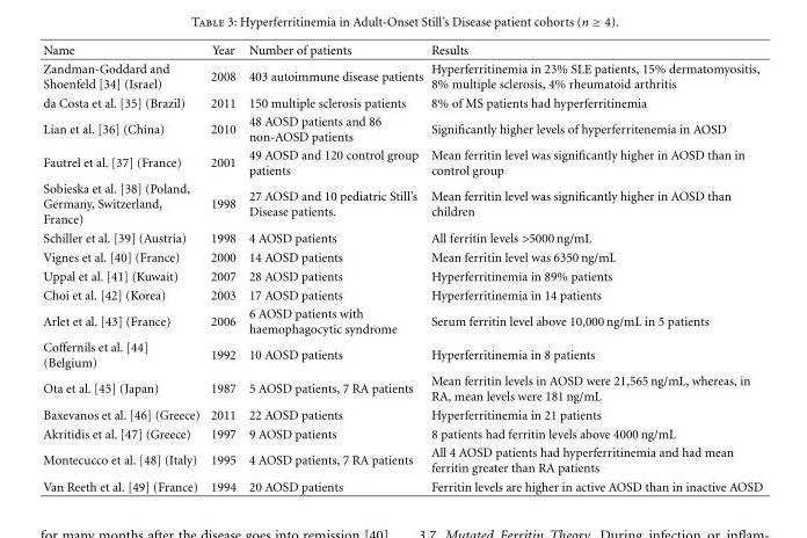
<table><thead><tr><td>Name</td><td>Year</td><td>Number of patients</td><td>Results</td></tr></thead><tbody><tr><td>Zandman-Goddard and Shoenfeld [34] (Israel)</td><td>2008</td><td>403 autoimmune disease patients</td><td>Hyperferritinemia in 23% SLE patients, 15% dermatomyositis, 8% multiple sclerosis, 4% rheumatoid arthritis</td></tr><tr><td>da Costa et al. [35] (Brazil)</td><td>2011</td><td>150 multiple sclerosis patients</td><td>8% of MS patients had hyperferritinemia</td></tr><tr><td>Lian et al. [36] (China)</td><td>2010</td><td>48 AOSD patients and 86 non-AOSD patients</td><td>Significantly higher levels of hyperferritenemia in AOSD</td></tr><tr><td>Fautrel et al. [37] (France)</td><td>2001</td><td>49 AOSD and 120 control group patients</td><td>Mean ferritin level was significantly higher in AOSD than in control group</td></tr><tr><td>Sobieska et al. [38] (Poland, Germany, Switzerland, France)</td><td>1998</td><td>27 AOSD and 10 pediatric Still’s Disease patients.</td><td>Mean ferritin level was significantly higher in AOSD than children</td></tr><tr><td>Schiller et al. [39] (Austria)</td><td>1998</td><td>4 AOSD patients</td><td>All ferritin levels &gt;5000 ng/mL</td></tr><tr><td>Vignes et al. [40] (France)</td><td>2000</td><td>14 AOSD patients</td><td>Mean ferritin level was 6350 ng/mL</td></tr><tr><td>Uppal et al. [41] (Kuwait)</td><td>2007</td><td>28 AOSD patients</td><td>Hyperferritinemia in 89% patients</td></tr><tr><td>Choi et al. [42] (Korea)</td><td>2003</td><td>17 AOSD patients</td><td>Hyperferritinemia in 14 patients</td></tr><tr><td>Arlet et al. [43] (France)</td><td>2006</td><td>6 AOSD patients with haemophagocytic syndrome</td><td>Serum ferritin level above 10,000 ng/mL in 5 patients</td></tr><tr><td>Coffernils et al. [44] (Belgium)</td><td>1992</td><td>10 AOSD patients</td><td>Hyperferritinemia in 8 patients</td></tr><tr><td>Ota et al. [45] (Japan)</td><td>1987</td><td>5 AOSD patients, 7 RA patients</td><td>Mean ferritin levels in AOSD were 21,565 ng/mL, whereas, in RA, mean levels were 181 ng/mL</td></tr><tr><td>Baxevanos et al. [46] (Greece)</td><td>2011</td><td>22 AOSD patients</td><td>Hyperferritinemia in 21 patients</td></tr><tr><td>Akritidis et al. [47] (Greece)</td><td>1997</td><td>9 AOSD patients</td><td>8 patients had ferritin levels above 4000 ng/mL</td></tr><tr><td>Montecucco et al. [48] (Italy)</td><td>1995</td><td>4 AOSD patients, 7 RA patients</td><td>All 4 AOSD patients had hyperferritinemia and had mean ferritin greater than RA patients</td></tr><tr><td>Van Reeth et al. [49] (France)</td><td>1994</td><td>20 AOSD patients</td><td>Ferritin levels are higher in active AOSD than in inactive AOSD</td></tr></tbody></table>